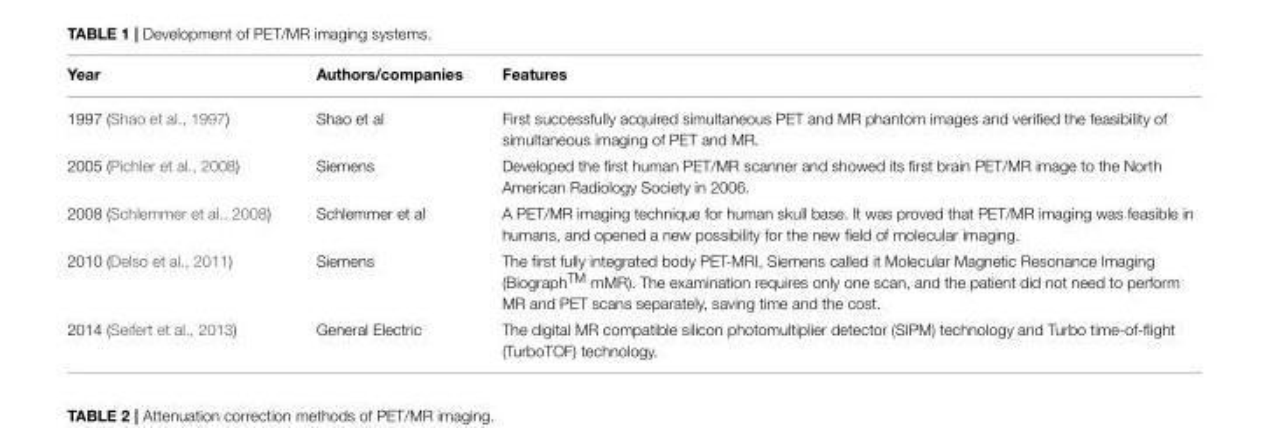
<table><thead><tr><td>Year</td><td>Authors/companies</td><td>Features</td></tr></thead><tbody><tr><td>1997 (Shao et al., 1997)</td><td>Shao et al</td><td>First successfully acquired simultaneous PET and MR phantom images and verified the feasibility of simultaneous imaging of PET and MR.</td></tr><tr><td>2005 (Pichler et al., 2008)</td><td>Siemens</td><td>Developed the first human PET/MR scanner and showed its first brain PET/MR image to the North American Radiology Society in 2006.</td></tr><tr><td>2008 (Schlemmer et al., 2008)</td><td>Schlemmer et al</td><td>A PET/MR imaging technique for human skull base. It was proved that PET/MR imaging was feasible in humans, and opened a new possibility for the new field of molecular imaging.</td></tr><tr><td>2010 (Delso et al., 2011)</td><td>Siemens</td><td>The first fully integrated body PET-MRI, Siemens called it Molecular Magnetic Resonance Imaging (BiographTM mMR). The examination requires only one scan, and the patient did not need to perform MR and PET scans separately, saving time and the cost.</td></tr><tr><td>2014 (Seifert et al., 2013)</td><td>General Electric</td><td>The digital MR compatible silicon photomultiplier detector (SIPM) technology and Turbo time-of-flight (TurboTOF) technology.</td></tr></tbody></table>